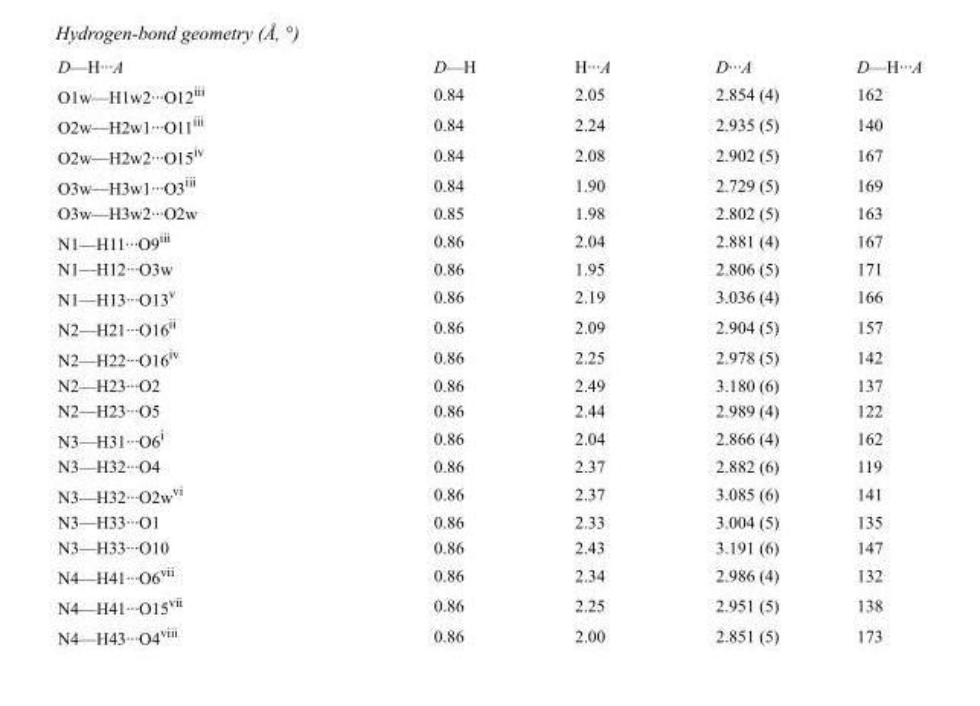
<table><tbody><tr><td>D—H···A</td><td>D—H</td><td>H···A</td><td>D···A</td><td>D—H···A</td></tr><tr><td>O1w—H1w2···O12<sup>iii</sup></td><td>0.84</td><td>2.05</td><td>2.854 (4)</td><td>162</td></tr><tr><td>O2w—H2w1···O11<sup>iii</sup></td><td>0.84</td><td>2.24</td><td>2.935 (5)</td><td>140</td></tr><tr><td>O2w—H2w2···O15<sup>iv</sup></td><td>0.84</td><td>2.08</td><td>2.902 (5)</td><td>167</td></tr><tr><td>O3w—H3w1···O3<sup>iii</sup></td><td>0.84</td><td>1.90</td><td>2.729 (5)</td><td>169</td></tr><tr><td>O3w—H3w2···O2w</td><td>0.85</td><td>1.98</td><td>2.802 (5)</td><td>163</td></tr><tr><td>N1—H11···O9<sup>iii</sup></td><td>0.86</td><td>2.04</td><td>2.881 (4)</td><td>167</td></tr><tr><td>N1—H12···O3w</td><td>0.86</td><td>1.95</td><td>2.806 (5)</td><td>171</td></tr><tr><td>N1—H13···O13<sup>v</sup></td><td>0.86</td><td>2.19</td><td>3.036 (4)</td><td>166</td></tr><tr><td>N2—H21···O16<sup>ii</sup></td><td>0.86</td><td>2.09</td><td>2.904 (5)</td><td>157</td></tr><tr><td>N2—H22···O16<sup>iv</sup></td><td>0.86</td><td>2.25</td><td>2.978 (5)</td><td>142</td></tr><tr><td>N2—H23···O2</td><td>0.86</td><td>2.49</td><td>3.180 (6)</td><td>137</td></tr><tr><td>N2—H23···O5</td><td>0.86</td><td>2.44</td><td>2.989 (4)</td><td>122</td></tr><tr><td>N3—H31···O6<sup>i</sup></td><td>0.86</td><td>2.04</td><td>2.866 (4)</td><td>162</td></tr><tr><td>N3—H32···O4</td><td>0.86</td><td>2.37</td><td>2.882 (6)</td><td>119</td></tr><tr><td>N3—H32···O2w<sup>vi</sup></td><td>0.86</td><td>2.37</td><td>3.085 (6)</td><td>141</td></tr><tr><td>N3—H33···O1</td><td>0.86</td><td>2.33</td><td>3.004 (5)</td><td>135</td></tr><tr><td>N3—H33···O10</td><td>0.86</td><td>2.43</td><td>3.191 (6)</td><td>147</td></tr><tr><td>N4—H41···O6<sup>vii</sup></td><td>0.86</td><td>2.34</td><td>2.986 (4)</td><td>132</td></tr><tr><td>N4—H41···O15<sup>vii</sup></td><td>0.86</td><td>2.25</td><td>2.951 (5)</td><td>138</td></tr><tr><td>N4—H43···O4<sup>viii</sup></td><td>0.86</td><td>2.00</td><td>2.851 (5)</td><td>173</td></tr></tbody></table>